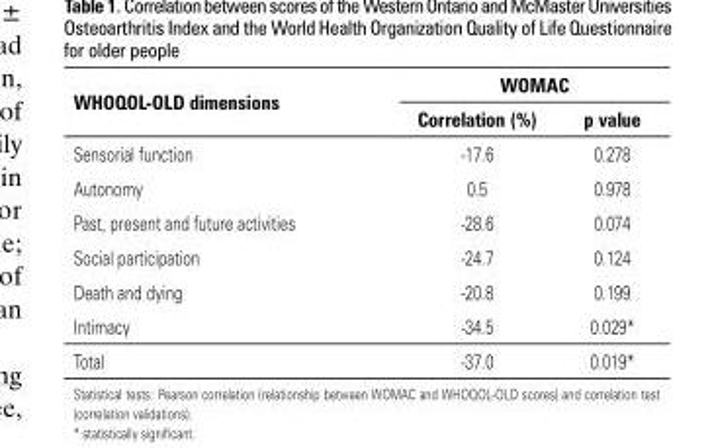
<table><thead><tr><td rowspan="2">WHOQOL-OLD dimensions</td><td colspan="2">WOMAC</td></tr><tr><td>Correlation (%)</td><td>p value</td></tr></thead><tbody><tr><td>Sensorial function</td><td>-17.6</td><td>0.278</td></tr><tr><td>Autonomy</td><td>0.5</td><td>0.978</td></tr><tr><td>Past, present and future activities</td><td>-28.6</td><td>0.074</td></tr><tr><td>Social participation</td><td>-24.7</td><td>0.124</td></tr><tr><td>Death and dying</td><td>-20.8</td><td>0.199</td></tr><tr><td>Intimacy</td><td>-34.5</td><td>0.029*</td></tr><tr><td>Total</td><td>-37.0</td><td>0.019*</td></tr></tbody></table>